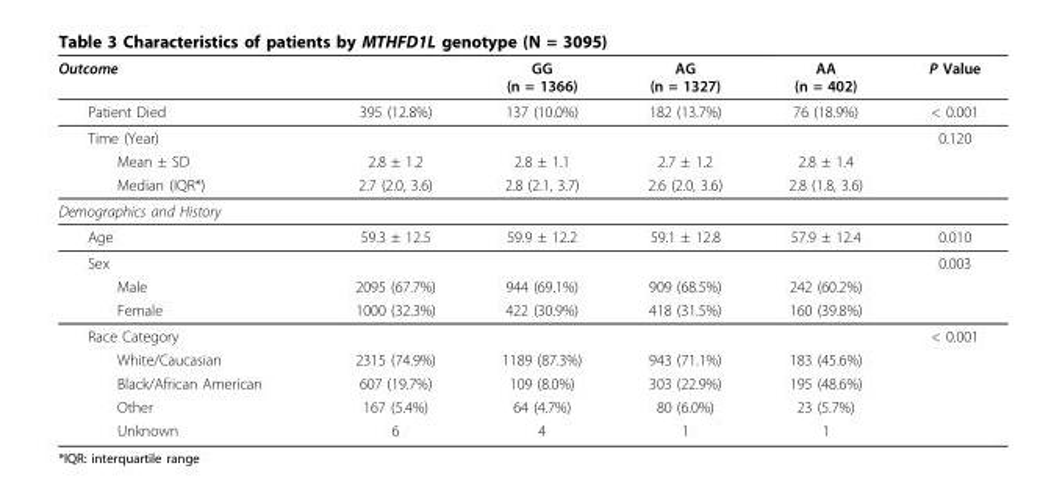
<table><thead><tr><td>Outcome</td><td></td><td>GG (n = 1366)</td><td>AG (n = 1327)</td><td>AA (n = 402)</td><td>P Value</td></tr></thead><tbody><tr><td>Patient Died</td><td>395 (12.8%)</td><td>137 (10.0%)</td><td>182 (13.7%)</td><td>76 (18.9%)</td><td>&lt; 0.001</td></tr><tr><td>Time (Year)</td><td></td><td></td><td></td><td></td><td>0.120</td></tr><tr><td>Mean ± SD</td><td>2.8 ± 1.2</td><td>2.8 ± 1.1</td><td>2.7 ± 1.2</td><td>2.8 ± 1.4</td><td></td></tr><tr><td>Median (IQR*)</td><td>2.7 (2.0, 3.6)</td><td>2.8 (2.1, 3.7)</td><td>2.6 (2.0, 3.6)</td><td>2.8 (1.8, 3.6)</td><td></td></tr><tr><td colspan="6">Demographics and History</td></tr><tr><td>Age</td><td>59.3 ± 12.5</td><td>59.9 ± 12.2</td><td>59.1 ± 12.8</td><td>57.9 ± 12.4</td><td>0.010</td></tr><tr><td>Sex</td><td></td><td></td><td></td><td></td><td>0.003</td></tr><tr><td>Male</td><td>2095 (67.7%)</td><td>944 (69.1%)</td><td>909 (68.5%)</td><td>242 (60.2%)</td><td></td></tr><tr><td>Female</td><td>1000 (32.3%)</td><td>422 (30.9%)</td><td>418 (31.5%)</td><td>160 (39.8%)</td><td></td></tr><tr><td>Race Category</td><td></td><td></td><td></td><td></td><td>&lt; 0.001</td></tr><tr><td>White/Caucasian</td><td>2315 (74.9%)</td><td>1189 (87.3%)</td><td>943 (71.1%)</td><td>183 (45.6%)</td><td></td></tr><tr><td>Black/African American</td><td>607 (19.7%)</td><td>109 (8.0%)</td><td>303 (22.9%)</td><td>195 (48.6%)</td><td></td></tr><tr><td>Other</td><td>167 (5.4%)</td><td>64 (4.7%)</td><td>80 (6.0%)</td><td>23 (5.7%)</td><td></td></tr><tr><td>Unknown</td><td>6</td><td>4</td><td>1</td><td>1</td><td></td></tr></tbody></table>